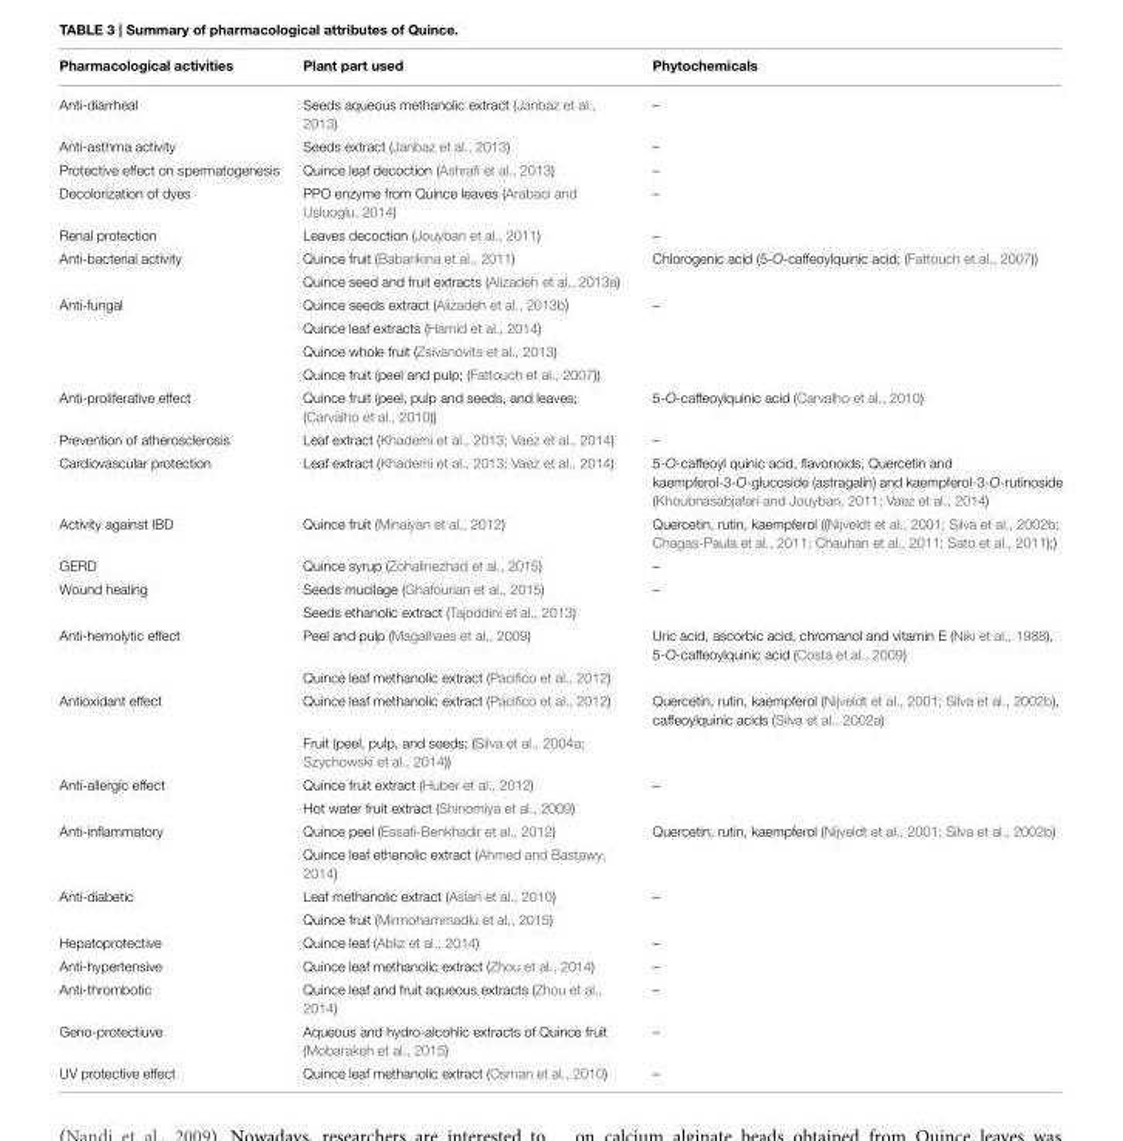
<table><thead><tr><td>Pharmacological activities</td><td>Plant part used</td><td>Phytochemicals</td></tr></thead><tbody><tr><td>Anti-diarrheal</td><td>Seeds aqueous methanolic extract (Janbaz et al., 2013)</td><td>–</td></tr><tr><td>Anti-asthma activity</td><td>Seeds extract (Janbaz et al., 2013)</td><td>–</td></tr><tr><td>Protective effect on spermatogenesis</td><td>Quince leaf decoction (Ashrafi et al., 2013)</td><td>–</td></tr><tr><td>Decolorization of dyes</td><td>PPO enzyme from Quince leaves (Arabaci and Usluoglu, 2014)</td><td>–</td></tr><tr><td>Renal protection</td><td>Leaves decoction (Jouyban et al., 2011)</td><td>–</td></tr><tr><td rowspan="2">Anti-bacterial activity</td><td>Quince fruit (Babarikina et al., 2011)</td><td>Chlorogenic acid (5-O-caffeoylquinic acid; (Fattouch et al., 2007))</td></tr><tr><td>Quince seed and fruit extracts (Alizadeh et al., 2013a)</td><td></td></tr><tr><td rowspan="4">Anti-fungal</td><td>Quince seeds extract (Alizadeh et al., 2013b)</td><td>–</td></tr><tr><td>Quince leaf extracts (Hamid et al., 2014)</td><td></td></tr><tr><td>Quince whole fruit (Zsivanovits et al., 2013)</td><td></td></tr><tr><td>Quince fruit (peel and pulp; (Fattouch et al., 2007))</td><td></td></tr><tr><td>Anti-proliferative effect</td><td>Quince fruit (peel, pulp and seeds, and leaves; (Carvalho et al., 2010))</td><td>5-O-caffeoylquinic acid (Carvalho et al., 2010)</td></tr><tr><td>Prevention of atherosclerosis</td><td>Leaf extract (Khademi et al., 2013; Vaez et al., 2014)</td><td>–</td></tr><tr><td>Cardiovascular protection</td><td>Leaf extract (Khademi et al., 2013; Vaez et al., 2014)</td><td>5-O-caffeoyl quinic acid, flavonoids, Quercetin and kaempferol-3-O-glucoside (astragalin) and kaempferol-3-O-rutinoside (Khoubnasabjafari and Jouyban, 2011; Vaez et al., 2014)</td></tr><tr><td>Activity against IBD</td><td>Quince fruit (Minaiyan et al., 2012)</td><td>Quercetin, rutin, kaempferol ((Nijveldt et al., 2001; Silva et al., 2002b; Chagas-Paula et al., 2011; Chauhan et al., 2011; Sato et al., 2011);)</td></tr><tr><td>GERD</td><td>Quince syrup (Zohalinezhad et al., 2015)</td><td>–</td></tr><tr><td rowspan="2">Wound healing</td><td>Seeds mucilage (Ghafourian et al., 2015)</td><td>–</td></tr><tr><td>Seeds ethanolic extract (Tajoddini et al., 2013)</td><td></td></tr><tr><td rowspan="2">Anti-hemolytic effect</td><td>Peel and pulp (Magalhaes et al., 2009)</td><td>Uric acid, ascorbic acid, chromanol and vitamin E (Niki et al., 1988), 5-O-caffeoylquinic acid (Costa et al., 2009)</td></tr><tr><td>Quince leaf methanolic extract (Pacifico et al., 2012)</td><td></td></tr><tr><td rowspan="2">Antioxidant effect</td><td>Quince leaf methanolic extract (Pacifico et al., 2012)</td><td>Quercetin, rutin, kaempferol (Nijveldt et al., 2001; Silva et al., 2002b), caffeoylquinic acids (Silva et al., 2002a)</td></tr><tr><td>Fruit (peel, pulp, and seeds; (Silva et al., 2004a; Szychowski et al., 2014))</td><td></td></tr><tr><td rowspan="2">Anti-allergic effect</td><td>Quince fruit extract (Huber et al., 2012)</td><td>–</td></tr><tr><td>Hot water fruit extract (Shinomiya et al., 2009)</td><td></td></tr><tr><td rowspan="2">Anti-inflammatory</td><td>Quince peel (Essafi-Benkhadir et al., 2012)</td><td>Quercetin, rutin, kaempferol (Nijveldt et al., 2001; Silva et al., 2002b)</td></tr><tr><td>Quince leaf ethanolic extract (Ahmed and Bastawy, 2014)</td><td></td></tr><tr><td rowspan="2">Anti-diabetic</td><td>Leaf methanolic extract (Aslan et al., 2010)</td><td>–</td></tr><tr><td>Quince fruit (Mirmohammadlu et al., 2015)</td><td></td></tr><tr><td>Hepatoprotective</td><td>Quince leaf (Abliz et al., 2014)</td><td>–</td></tr><tr><td>Anti-hypertensive</td><td>Quince leaf methanolic extract (Zhou et al., 2014)</td><td>–</td></tr><tr><td>Anti-thrombotic</td><td>Quince leaf and fruit aqueous extracts (Zhou et al., 2014)</td><td>–</td></tr><tr><td>Geno-protectiuve</td><td>Aqueous and hydro-alcohlic extracts of Quince fruit (Mobarakeh et al., 2015)</td><td>–</td></tr><tr><td>UV protective effect</td><td>Quince leaf methanolic extract (Osman et al., 2010)</td><td>–</td></tr></tbody></table>